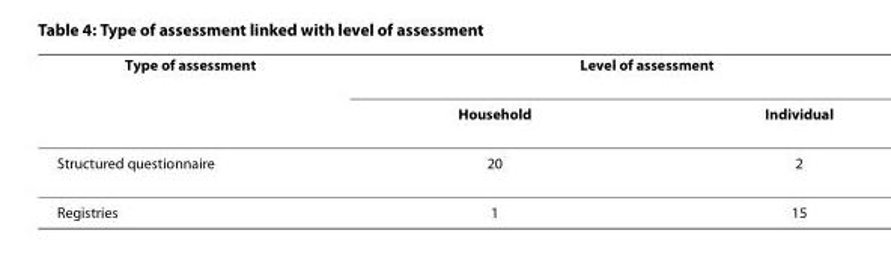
<table><thead><tr><td rowspan="2">Type of assessment</td><td colspan="2">Level of assessment</td></tr><tr><td>Household</td><td>Individual</td></tr></thead><tbody><tr><td>Structured questionnaire</td><td>20</td><td>2</td></tr><tr><td>Registries</td><td>1</td><td>15</td></tr></tbody></table>